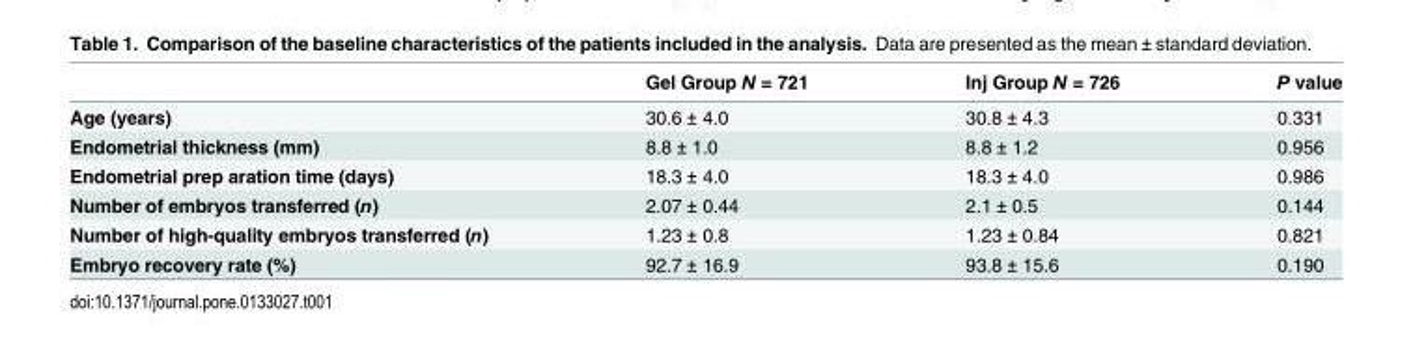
<table><thead><tr><td></td><td>Gel Group N = 721</td><td>Inj Group N = 726</td><td>P value</td></tr></thead><tbody><tr><td>Age (years)</td><td>30.6 ± 4.0</td><td>30.8 ± 4.3</td><td>0.331</td></tr><tr><td>Endometrial thickness (mm)</td><td>8.8 ± 1.0</td><td>8.8 ± 1.2</td><td>0.956</td></tr><tr><td>Endometrial prep aration time (days)</td><td>18.3 ± 4.0</td><td>18.3 ± 4.0</td><td>0.986</td></tr><tr><td>Number of embryos transferred (n)</td><td>2.07 ± 0.44</td><td>2.1 ± 0.5</td><td>0.144</td></tr><tr><td>Number of high-quality embryos transferred (n)</td><td>1.23 ± 0.8</td><td>1.23 ± 0.84</td><td>0.821</td></tr><tr><td>Embryo recovery rate (%)</td><td>92.7 ± 16.9</td><td>93.8 ± 15.6</td><td>0.190</td></tr></tbody></table>